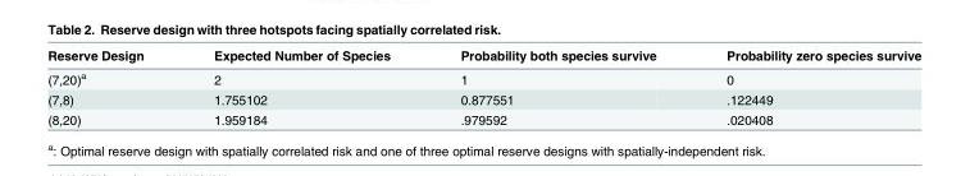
<table><thead><tr><td>Reserve Design</td><td>Expected Number of Species</td><td>Probability both species survive</td><td>Probability zero species survive</td></tr></thead><tbody><tr><td>(7,20)<sup>a</sup></td><td>2</td><td>1</td><td>0</td></tr><tr><td>(7,8)</td><td>1.755102</td><td>0.877551</td><td>.122449</td></tr><tr><td>(8,20)</td><td>1.959184</td><td>.979592</td><td>.020408</td></tr></tbody></table>